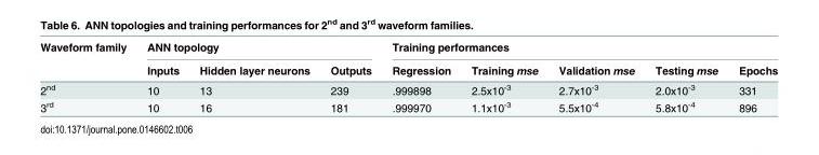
<table><thead><tr><td rowspan="2">Waveform family</td><td colspan="3">ANN topology</td><td colspan="5">Training performances</td></tr><tr><td>Inputs</td><td>Hidden layer neurons</td><td>Outputs</td><td>Regression</td><td>Training mse</td><td>Validation mse</td><td>Testing mse</td><td>Epochs</td></tr></thead><tbody><tr><td>2<sup>nd</sup></td><td>10</td><td>13</td><td>239</td><td>.999898</td><td>2.5x10<sup>-3</sup></td><td>2.7x10<sup>-3</sup></td><td>2.0x10<sup>-3</sup></td><td>331</td></tr><tr><td>3<sup>rd</sup></td><td>10</td><td>16</td><td>181</td><td>.999970</td><td>1.1x10<sup>-3</sup></td><td>5.5x10<sup>-4</sup></td><td>5.8x10<sup>-4</sup></td><td>896</td></tr></tbody></table>